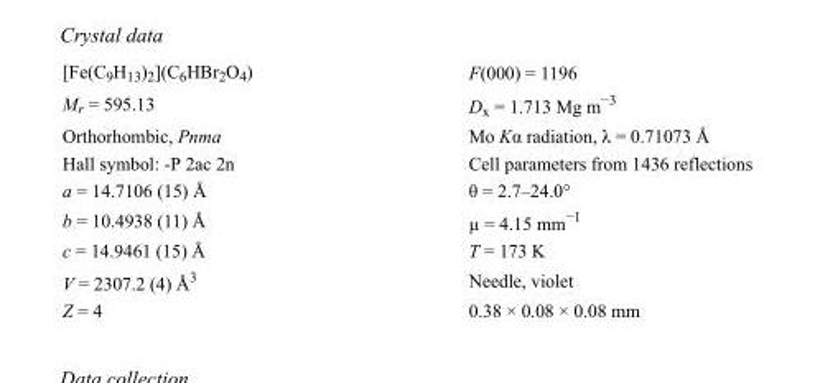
<table><tbody><tr><td>[Fe(C<sub>9</sub>H<sub>13</sub>)<sub>2</sub>](C<sub>6</sub>HBr<sub>2</sub>O<sub>4</sub>)</td><td>F(000) = 1196</td></tr><tr><td>M<sub>r</sub> = 595.13</td><td>D<sub>x</sub> = 1.713 Mg m<sup>−3</sup></td></tr><tr><td>Orthorhombic, Pnma</td><td>Mo Kα radiation, λ = 0.71073 Å</td></tr><tr><td>Hall symbol: -P 2ac 2n</td><td>Cell parameters from 1436 reflections</td></tr><tr><td>a = 14.7106 (15) Å</td><td>θ = 2.7–24.0°</td></tr><tr><td>b = 10.4938 (11) Å</td><td>µ = 4.15 mm<sup>−1</sup></td></tr><tr><td>c = 14.9461 (15) Å</td><td>T = 173 K</td></tr><tr><td>V = 2307.2 (4) Å<sup>3</sup></td><td>Needle, violet</td></tr><tr><td>Z = 4</td><td>0.38 × 0.08 × 0.08 mm</td></tr></tbody></table>